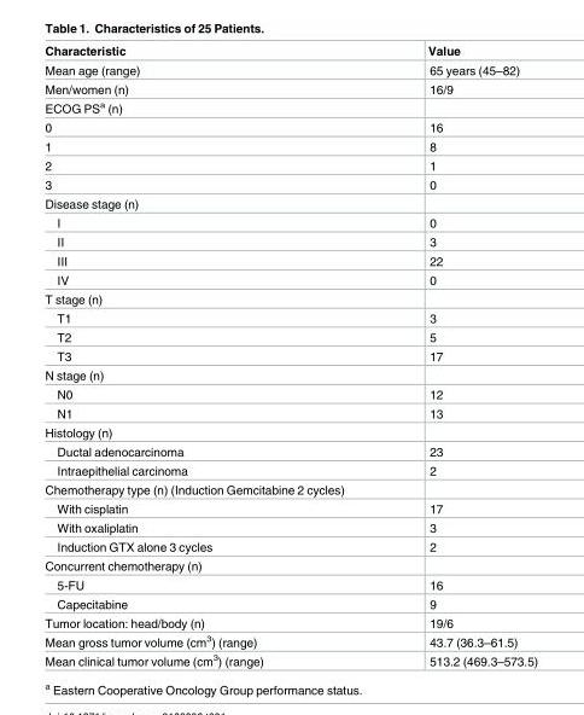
<table><thead><tr><td>Characteristic</td><td>Value</td></tr></thead><tbody><tr><td>Mean age (range)</td><td>65 years (45–82)</td></tr><tr><td>Men/women (n)</td><td>16/9</td></tr><tr><td colspan="2">ECOG PS<sup>a</sup> (n)</td></tr><tr><td>0</td><td>16</td></tr><tr><td>1</td><td>8</td></tr><tr><td>2</td><td>1</td></tr><tr><td>3</td><td>0</td></tr><tr><td colspan="2">Disease stage (n)</td></tr><tr><td>I</td><td>0</td></tr><tr><td>II</td><td>3</td></tr><tr><td>III</td><td>22</td></tr><tr><td>IV</td><td>0</td></tr><tr><td colspan="2">T stage (n)</td></tr><tr><td>T1</td><td>3</td></tr><tr><td>T2</td><td>5</td></tr><tr><td>T3</td><td>17</td></tr><tr><td colspan="2">N stage (n)</td></tr><tr><td>N0</td><td>12</td></tr><tr><td>N1</td><td>13</td></tr><tr><td colspan="2">Histology (n)</td></tr><tr><td>Ductal adenocarcinoma</td><td>23</td></tr><tr><td>Intraepithelial carcinoma</td><td>2</td></tr><tr><td colspan="2">Chemotherapy type (n) (Induction Gemcitabine 2 cycles)</td></tr><tr><td>With cisplatin</td><td>17</td></tr><tr><td>With oxaliplatin</td><td>3</td></tr><tr><td>Induction GTX alone 3 cycles</td><td>2</td></tr><tr><td colspan="2">Concurrent chemotherapy (n)</td></tr><tr><td>5-FU</td><td>16</td></tr><tr><td>Capecitabine</td><td>9</td></tr><tr><td>Tumor location: head/body (n)</td><td>19/6</td></tr><tr><td>Mean gross tumor volume (cm<sup>3</sup>) (range)</td><td>43.7 (36.3–61.5)</td></tr><tr><td>Mean clinical tumor volume (cm<sup>3</sup>) (range)</td><td>513.2 (469.3–573.5)</td></tr></tbody></table>